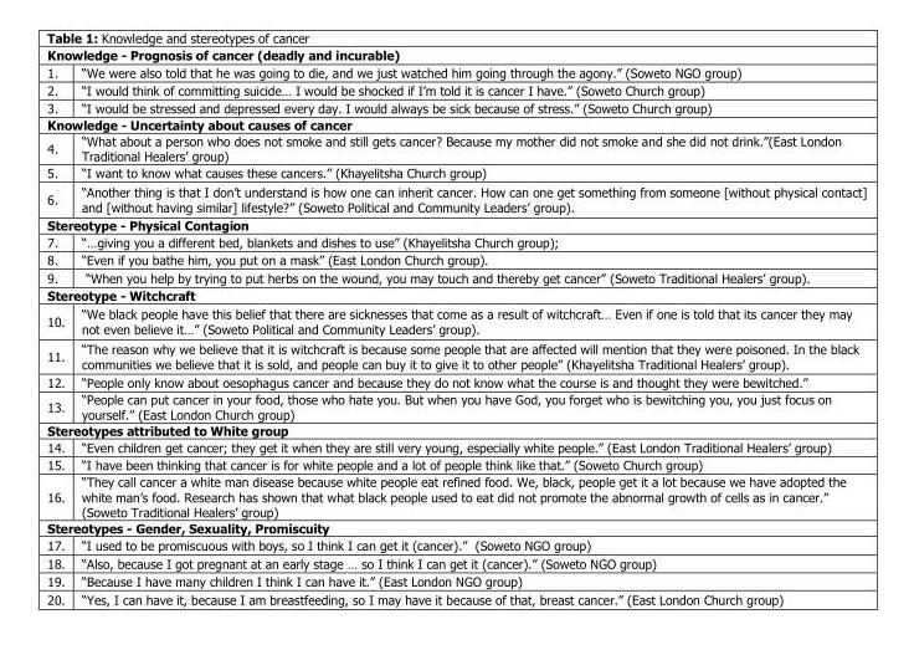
<table><thead><tr><td colspan="2">Knowledge - Prognosis of cancer (deadly and incurable)</td></tr><tr><td>1.</td><td>“We were also told that he was going to die, and we just watched him going through the agony.” (Soweto NGO group)</td></tr></thead><tbody><tr><td>2.</td><td>“I would think of committing suicide… I would be shocked if I’m told it is cancer I have.” (Soweto Church group)</td></tr><tr><td>3.</td><td>“I would be stressed and depressed every day. I would always be sick because of stress.” (Soweto Church group)</td></tr><tr><td colspan="2">Knowledge - Uncertainty about causes of cancer</td></tr><tr><td>4.</td><td>“What about a person who does not smoke and still gets cancer? Because my mother did not smoke and she did not drink.”(East London Traditional Healers’ group)</td></tr><tr><td>5.</td><td>“I want to know what causes these cancers.” (Khayelitsha Church group)</td></tr><tr><td>6.</td><td>“Another thing is that I don’t understand is how one can inherit cancer. How can one get something from someone [without physical contact] and [without having similar] lifestyle?” (Soweto Political and Community Leaders’ group).</td></tr><tr><td colspan="2">Stereotype - Physical Contagion</td></tr><tr><td>7.</td><td>“…giving you a different bed, blankets and dishes to use” (Khayelitsha Church group);</td></tr><tr><td>8.</td><td>“Even if you bathe him, you put on a mask” (East London Church group).</td></tr><tr><td>9.</td><td>“When you help by trying to put herbs on the wound, you may touch and thereby get cancer” (Soweto Traditional Healers’ group).</td></tr><tr><td colspan="2">Stereotype - Witchcraft</td></tr><tr><td>10.</td><td>“We black people have this belief that there are sicknesses that come as a result of witchcraft… Even if one is told that its cancer they may not even believe it…” (Soweto Political and Community Leaders’ group).</td></tr><tr><td>11.</td><td>“The reason why we believe that it is witchcraft is because some people that are affected will mention that they were poisoned. In the black communities we believe that it is sold, and people can buy it to give it to other people” (Khayelitsha Traditional Healers’ group).</td></tr><tr><td>12.</td><td>“People only know about oesophagus cancer and because they do not know what the course is and thought they were bewitched.”</td></tr><tr><td>13.</td><td>“People can put cancer in your food, those who hate you. But when you have God, you forget who is bewitching you, you just focus on yourself.” (East London Church group)</td></tr><tr><td colspan="2">Stereotypes attributed to White group</td></tr><tr><td>14.</td><td>“Even children get cancer; they get it when they are still very young, especially white people.” (East London Traditional Healers’ group)</td></tr><tr><td>15.</td><td>“I have been thinking that cancer is for white people and a lot of people think like that.” (Soweto Church group)</td></tr><tr><td>16.</td><td>“They call cancer a white man disease because white people eat refined food. We, black, people get it a lot because we have adopted the white man’s food. Research has shown that what black people used to eat did not promote the abnormal growth of cells as in cancer.” (Soweto Traditional Healers’ group)</td></tr><tr><td colspan="2">Stereotypes - Gender, Sexuality, Promiscuity</td></tr><tr><td>17.</td><td>“I used to be promiscuous with boys, so I think I can get it (cancer).” (Soweto NGO group)</td></tr><tr><td>18.</td><td>“Also, because I got pregnant at an early stage … so I think I can get it (cancer).” (Soweto NGO group)</td></tr><tr><td>19.</td><td>“Because I have many children I think I can have it.” (East London NGO group)</td></tr><tr><td>20.</td><td>“Yes, I can have it, because I am breastfeeding, so I may have it because of that, breast cancer.” (East London Church group)</td></tr></tbody></table>